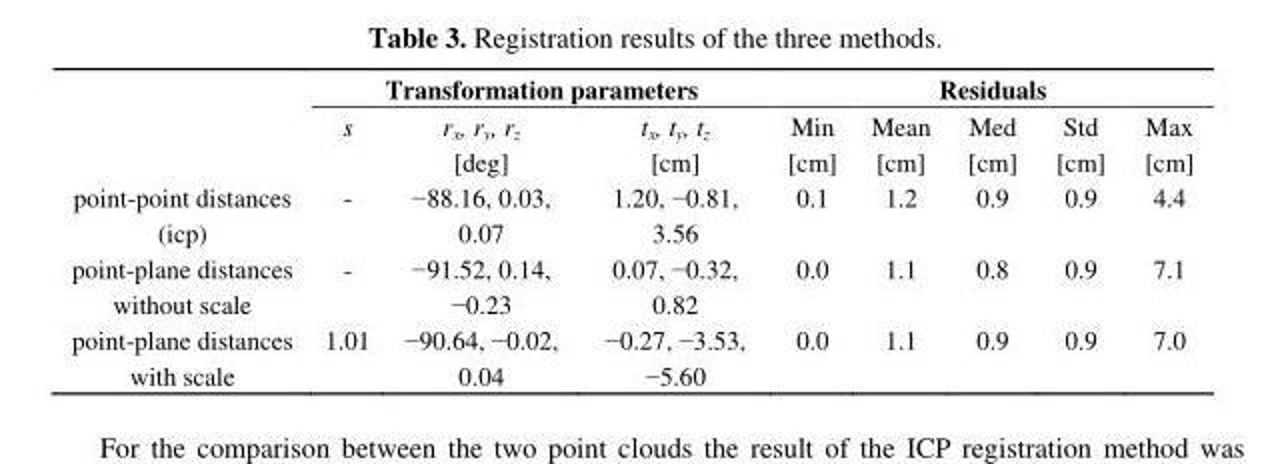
<table><thead><tr><td rowspan="2"></td><td colspan="3">Transformation parameters</td><td colspan="5">Residuals</td></tr><tr><td>s</td><td>r<sub>x</sub>, r<sub>y</sub>, r<sub>z</sub> [deg]</td><td>t<sub>x</sub>, t<sub>y</sub>, t<sub>z</sub> [cm]</td><td>Min [cm]</td><td>Mean [cm]</td><td>Med [cm]</td><td>Std [cm]</td><td>Max [cm]</td></tr></thead><tbody><tr><td>point-point distances (icp)</td><td>-</td><td>−88.16, 0.03, 0.07</td><td>1.20, −0.81, 3.56</td><td>0.1</td><td>1.2</td><td>0.9</td><td>0.9</td><td>4.4</td></tr><tr><td>point-plane distances without scale</td><td>-</td><td>−91.52, 0.14, −0.23</td><td>0.07, −0.32, 0.82</td><td>0.0</td><td>1.1</td><td>0.8</td><td>0.9</td><td>7.1</td></tr><tr><td>point-plane distances with scale</td><td>1.01</td><td>−90.64, −0.02, 0.04</td><td>−0.27, −3.53, −5.60</td><td>0.0</td><td>1.1</td><td>0.9</td><td>0.9</td><td>7.0</td></tr></tbody></table>